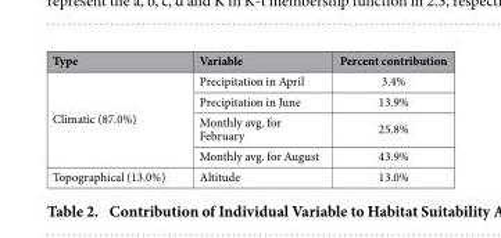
<table><thead><tr><td>Type</td><td>Variable</td><td>Percent contribution</td></tr></thead><tbody><tr><td rowspan="4">Climatic (87.0%)</td><td>Precipitation in April</td><td>3.4%</td></tr><tr><td>Precipitation in June</td><td>13.9%</td></tr><tr><td>Monthly avg. for February</td><td>25.8%</td></tr><tr><td>Monthly avg. for August</td><td>43.9%</td></tr><tr><td>Topographical (13.0%)</td><td>Altitude</td><td>13.0%</td></tr></tbody></table>